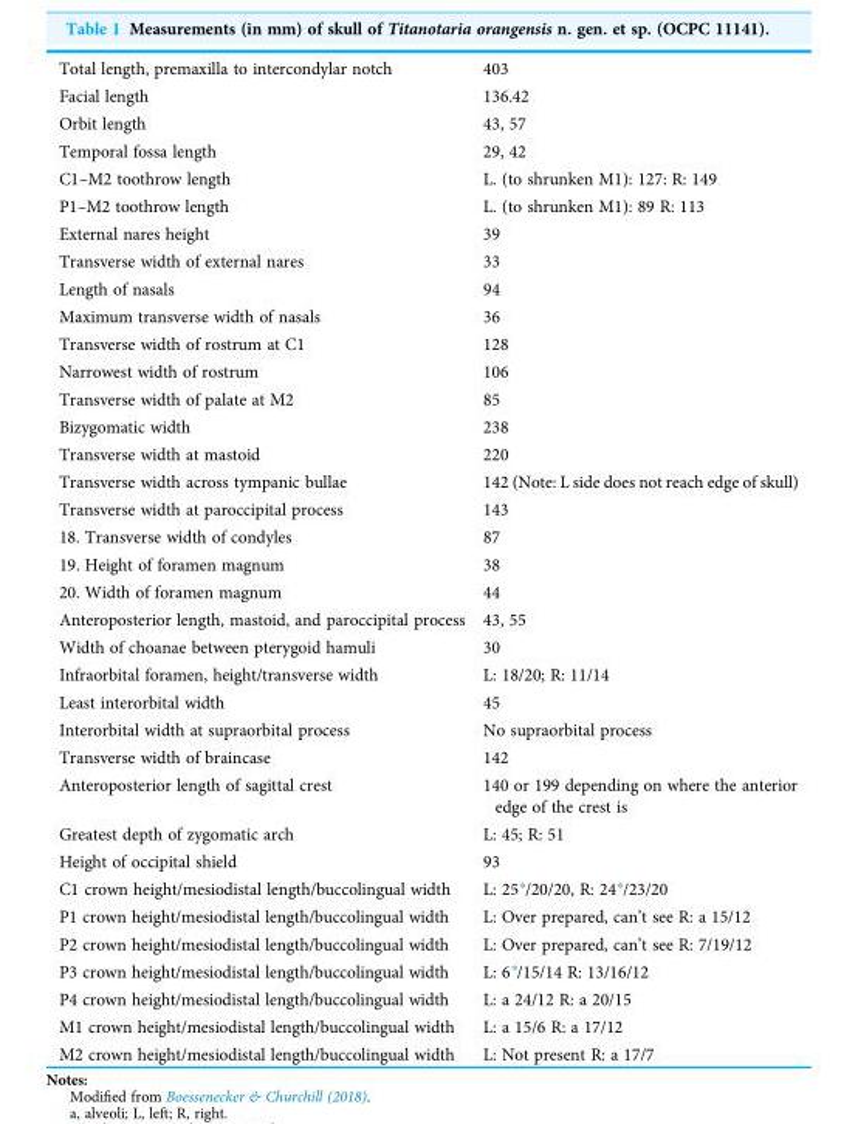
<table><tbody><tr><td>Total length, premaxilla to intercondylar notch</td><td>403</td></tr><tr><td>Facial length</td><td>136.42</td></tr><tr><td>Orbit length</td><td>43, 57</td></tr><tr><td>Temporal fossa length</td><td>29, 42</td></tr><tr><td>C1–M2 toothrow length</td><td>L. (to shrunken M1): 127: R: 149</td></tr><tr><td>P1–M2 toothrow length</td><td>L. (to shrunken M1): 89 R: 113</td></tr><tr><td>External nares height</td><td>39</td></tr><tr><td>Transverse width of external nares</td><td>33</td></tr><tr><td>Length of nasals</td><td>94</td></tr><tr><td>Maximum transverse width of nasals</td><td>36</td></tr><tr><td>Transverse width of rostrum at C1</td><td>128</td></tr><tr><td>Narrowest width of rostrum</td><td>106</td></tr><tr><td>Transverse width of palate at M2</td><td>85</td></tr><tr><td>Bizygomatic width</td><td>238</td></tr><tr><td>Transverse width at mastoid</td><td>220</td></tr><tr><td>Transverse width across tympanic bullae</td><td>142 (Note: L side does not reach edge of skull)</td></tr><tr><td>Transverse width at paroccipital process</td><td>143</td></tr><tr><td>18. Transverse width of condyles</td><td>87</td></tr><tr><td>19. Height of foramen magnum</td><td>38</td></tr><tr><td>20. Width of foramen magnum</td><td>44</td></tr><tr><td>Anteroposterior length, mastoid, and paroccipital process</td><td>43, 55</td></tr><tr><td>Width of choanae between pterygoid hamuli</td><td>30</td></tr><tr><td>Infraorbital foramen, height/transverse width</td><td>L: 18/20; R: 11/14</td></tr><tr><td>Least interorbital width</td><td>45</td></tr><tr><td>Interorbital width at supraorbital process</td><td>No supraorbital process</td></tr><tr><td>Transverse width of braincase</td><td>142</td></tr><tr><td>Anteroposterior length of sagittal crest</td><td>140 or 199 depending on where the anterior edge of the crest is</td></tr><tr><td>Greatest depth of zygomatic arch</td><td>L: 45; R: 51</td></tr><tr><td>Height of occipital shield</td><td>93</td></tr><tr><td>C1 crown height/mesiodistal length/buccolingual width</td><td>L: 25*/20/20, R: 24*/23/20</td></tr><tr><td>P1 crown height/mesiodistal length/buccolingual width</td><td>L: Over prepared, can’t see R: a 15/12</td></tr><tr><td>P2 crown height/mesiodistal length/buccolingual width</td><td>L: Over prepared, can’t see R: 7/19/12</td></tr><tr><td>P3 crown height/mesiodistal length/buccolingual width</td><td>L: 6*/15/14 R: 13/16/12</td></tr><tr><td>P4 crown height/mesiodistal length/buccolingual width</td><td>L: a 24/12 R: a 20/15</td></tr><tr><td>M1 crown height/mesiodistal length/buccolingual width</td><td>L: a 15/6 R: a 17/12</td></tr><tr><td>M2 crown height/mesiodistal length/buccolingual width</td><td>L: Not present R: a 17/7</td></tr></tbody></table>